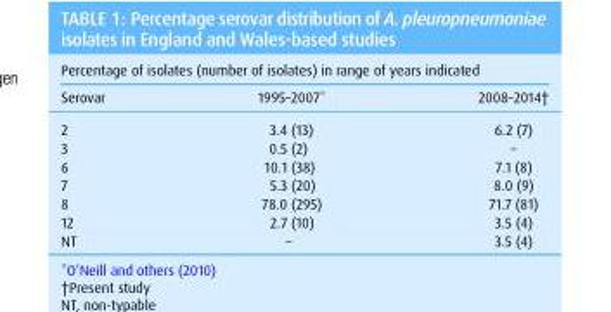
<table><thead><tr><td colspan="3">Percentage of isolates (number of isolates) in range of years indicated</td></tr><tr><td>Serovar</td><td>1995–2007*</td><td>2008–2014†</td></tr></thead><tbody><tr><td>2</td><td>3.4 (13)</td><td>6.2 (7)</td></tr><tr><td>3</td><td>0.5 (2)</td><td>–</td></tr><tr><td>6</td><td>10.1 (38)</td><td>7.1 (8)</td></tr><tr><td>7</td><td>5.3 (20)</td><td>8.0 (9)</td></tr><tr><td>8</td><td>78.0 (295)</td><td>71.7 (81)</td></tr><tr><td>12</td><td>2.7 (10)</td><td>3.5 (4)</td></tr><tr><td>NT</td><td>–</td><td>3.5 (4)</td></tr></tbody></table>